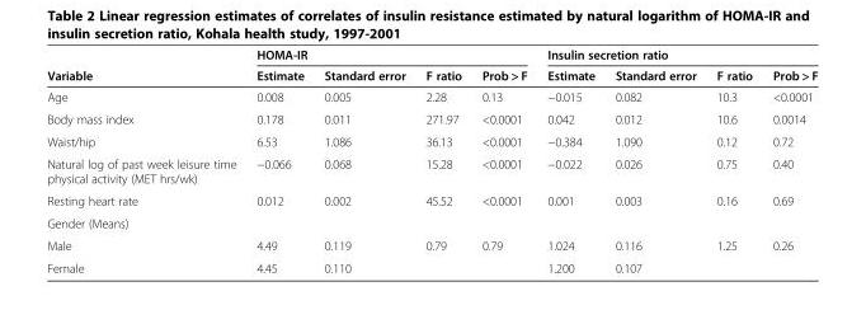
<table><thead><tr><td rowspan="2">Variable</td><td colspan="4">HOMA-IR</td><td colspan="4">Insulin secretion ratio</td></tr><tr><td>Estimate</td><td>Standard error</td><td>F ratio</td><td>Prob &gt; F</td><td>Estimate</td><td>Standard error</td><td>F ratio</td><td>Prob &gt; F</td></tr></thead><tbody><tr><td>Age</td><td>0.008</td><td>0.005</td><td>2.28</td><td>0.13</td><td>−0.015</td><td>0.082</td><td>10.3</td><td>&lt;0.0001</td></tr><tr><td>Body mass index</td><td>0.178</td><td>0.011</td><td>271.97</td><td>&lt;0.0001</td><td>0.042</td><td>0.012</td><td>10.6</td><td>0.0014</td></tr><tr><td>Waist/hip</td><td>6.53</td><td>1.086</td><td>36.13</td><td>&lt;0.0001</td><td>−0.384</td><td>1.090</td><td>0.12</td><td>0.72</td></tr><tr><td>Natural log of past week leisure time physical activity (MET hrs/wk)</td><td>−0.066</td><td>0.068</td><td>15.28</td><td>&lt;0.0001</td><td>−0.022</td><td>0.026</td><td>0.75</td><td>0.40</td></tr><tr><td>Resting heart rate</td><td>0.012</td><td>0.002</td><td>45.52</td><td>&lt;0.0001</td><td>0.001</td><td>0.003</td><td>0.16</td><td>0.69</td></tr><tr><td colspan="9">Gender (Means)</td></tr><tr><td>Male</td><td>4.49</td><td>0.119</td><td>0.79</td><td>0.79</td><td>1.024</td><td>0.116</td><td>1.25</td><td>0.26</td></tr><tr><td>Female</td><td>4.45</td><td>0.110</td><td></td><td></td><td>1.200</td><td>0.107</td><td></td><td></td></tr></tbody></table>